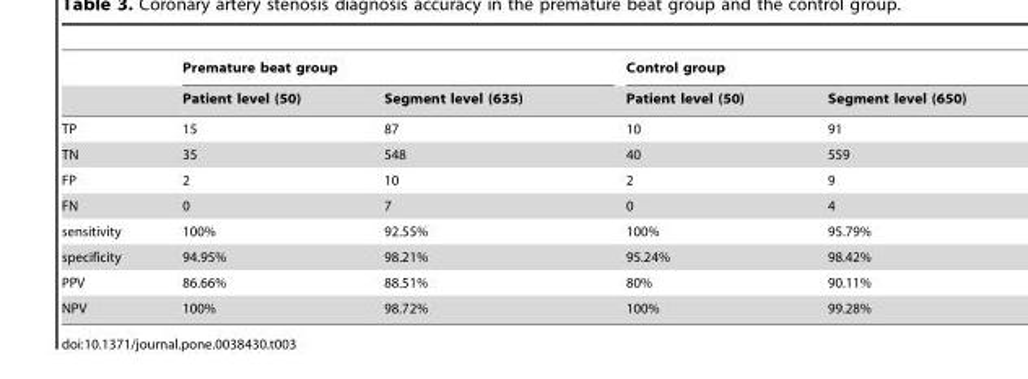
<table><thead><tr><td rowspan="2"></td><td colspan="2">Premature beat group</td><td colspan="2">Control group</td></tr><tr><td>Patient level (50)</td><td>Segment level (635)</td><td>Patient level (50)</td><td>Segment level (650)</td></tr></thead><tbody><tr><td>TP</td><td>15</td><td>87</td><td>10</td><td>91</td></tr><tr><td>TN</td><td>35</td><td>548</td><td>40</td><td>559</td></tr><tr><td>FP</td><td>2</td><td>10</td><td>2</td><td>9</td></tr><tr><td>FN</td><td>0</td><td>7</td><td>0</td><td>4</td></tr><tr><td>sensitivity</td><td>100%</td><td>92.55%</td><td>100%</td><td>95.79%</td></tr><tr><td>specificity</td><td>94.95%</td><td>98.21%</td><td>95.24%</td><td>98.42%</td></tr><tr><td>PPV</td><td>86.66%</td><td>88.51%</td><td>80%</td><td>90.11%</td></tr><tr><td>NPV</td><td>100%</td><td>98.72%</td><td>100%</td><td>99.28%</td></tr></tbody></table>